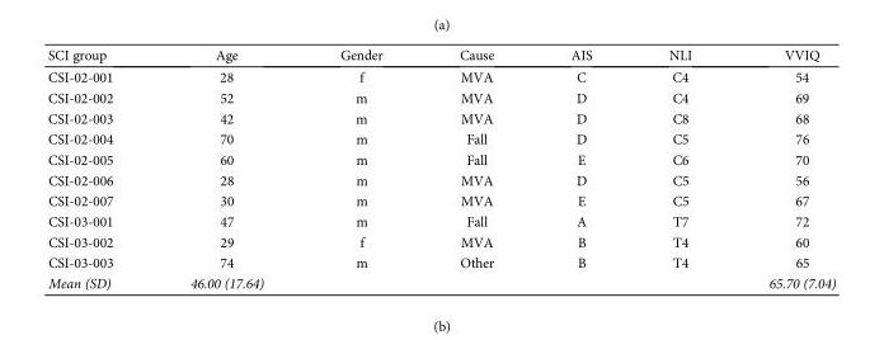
<table><thead><tr><td>SCI group</td><td>Age</td><td>Gender</td><td>Cause</td><td>AIS</td><td>NLI</td><td>VVIQ</td></tr></thead><tbody><tr><td>CSI-02-001</td><td>28</td><td>f</td><td>MVA</td><td>C</td><td>C4</td><td>54</td></tr><tr><td>CSI-02-002</td><td>52</td><td>m</td><td>MVA</td><td>D</td><td>C4</td><td>69</td></tr><tr><td>CSI-02-003</td><td>42</td><td>m</td><td>MVA</td><td>D</td><td>C8</td><td>68</td></tr><tr><td>CSI-02-004</td><td>70</td><td>m</td><td>Fall</td><td>D</td><td>C5</td><td>76</td></tr><tr><td>CSI-02-005</td><td>60</td><td>m</td><td>Fall</td><td>E</td><td>C6</td><td>70</td></tr><tr><td>CSI-02-006</td><td>28</td><td>m</td><td>MVA</td><td>D</td><td>C5</td><td>56</td></tr><tr><td>CSI-02-007</td><td>30</td><td>m</td><td>MVA</td><td>E</td><td>C5</td><td>67</td></tr><tr><td>CSI-03-001</td><td>47</td><td>m</td><td>Fall</td><td>A</td><td>T7</td><td>72</td></tr><tr><td>CSI-03-002</td><td>29</td><td>f</td><td>MVA</td><td>B</td><td>T4</td><td>60</td></tr><tr><td>CSI-03-003</td><td>74</td><td>m</td><td>Other</td><td>B</td><td>T4</td><td>65</td></tr><tr><td>Mean (SD)</td><td>46.00 (17.64)</td><td></td><td></td><td></td><td></td><td>65.70 (7.04)</td></tr></tbody></table>